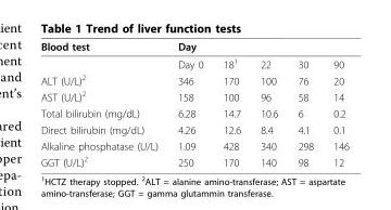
<table><thead><tr><td>Blood test</td><td>Day</td><td></td><td></td><td></td><td></td></tr></thead><tbody><tr><td></td><td>Day 0</td><td>18<sup>1</sup></td><td>22</td><td>30</td><td>90</td></tr><tr><td>ALT (U/L)<sup>2</sup></td><td>346</td><td>170</td><td>100</td><td>76</td><td>20</td></tr><tr><td>AST (U/L)<sup>2</sup></td><td>158</td><td>100</td><td>96</td><td>58</td><td>14</td></tr><tr><td>Total bilirubin (mg/dL)</td><td>6.28</td><td>14.7</td><td>10.6</td><td>6</td><td>0.2</td></tr><tr><td>Direct bilirubin (mg/dL)</td><td>4.26</td><td>12.6</td><td>8.4</td><td>4.1</td><td>0.1</td></tr><tr><td>Alkaline phosphatase (U/L)</td><td>1.09</td><td>428</td><td>340</td><td>298</td><td>146</td></tr><tr><td>GGT (U/L)<sup>2</sup></td><td>250</td><td>170</td><td>140</td><td>98</td><td>12</td></tr></tbody></table>